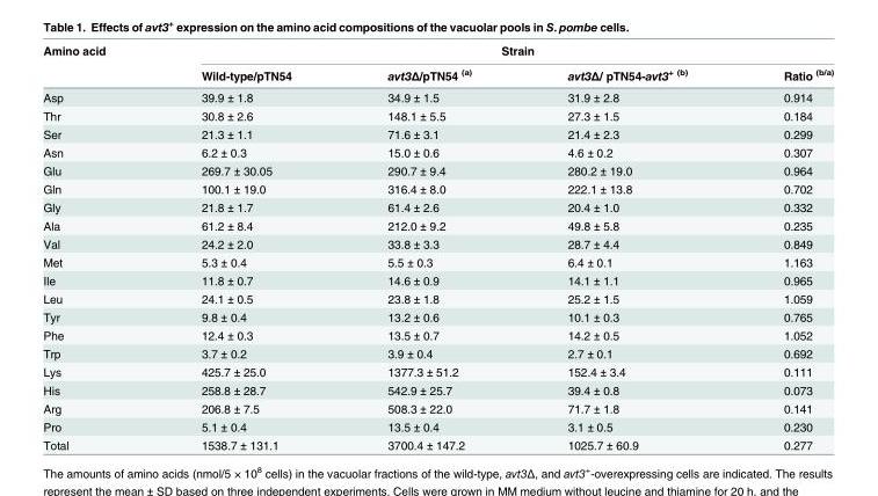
<table><thead><tr><td rowspan="2">Amino acid</td><td colspan="4">Strain</td></tr><tr><td>Wild-type/pTN54</td><td>avt3Δ/pTN54 <sup>(a)</sup></td><td>avt3Δ/ pTN54-avt3<sup>+ (b)</sup></td><td>Ratio <sup>(b/a)</sup></td></tr></thead><tbody><tr><td>Asp</td><td>39.9 ± 1.8</td><td>34.9 ± 1.5</td><td>31.9 ± 2.8</td><td>0.914</td></tr><tr><td>Thr</td><td>30.8 ± 2.6</td><td>148.1 ± 5.5</td><td>27.3 ± 1.5</td><td>0.184</td></tr><tr><td>Ser</td><td>21.3 ± 1.1</td><td>71.6 ± 3.1</td><td>21.4 ± 2.3</td><td>0.299</td></tr><tr><td>Asn</td><td>6.2 ± 0.3</td><td>15.0 ± 0.6</td><td>4.6 ± 0.2</td><td>0.307</td></tr><tr><td>Glu</td><td>269.7 ± 30.05</td><td>290.7 ± 9.4</td><td>280.2 ± 19.0</td><td>0.964</td></tr><tr><td>Gln</td><td>100.1 ± 19.0</td><td>316.4 ± 8.0</td><td>222.1 ± 13.8</td><td>0.702</td></tr><tr><td>Gly</td><td>21.8 ± 1.7</td><td>61.4 ± 2.6</td><td>20.4 ± 1.0</td><td>0.332</td></tr><tr><td>Ala</td><td>61.2 ± 8.4</td><td>212.0 ± 9.2</td><td>49.8 ± 5.8</td><td>0.235</td></tr><tr><td>Val</td><td>24.2 ± 2.0</td><td>33.8 ± 3.3</td><td>28.7 ± 4.4</td><td>0.849</td></tr><tr><td>Met</td><td>5.3 ± 0.4</td><td>5.5 ± 0.3</td><td>6.4 ± 0.1</td><td>1.163</td></tr><tr><td>Ile</td><td>11.8 ± 0.7</td><td>14.6 ± 0.9</td><td>14.1 ± 1.1</td><td>0.965</td></tr><tr><td>Leu</td><td>24.1 ± 0.5</td><td>23.8 ± 1.8</td><td>25.2 ± 1.5</td><td>1.059</td></tr><tr><td>Tyr</td><td>9.8 ± 0.4</td><td>13.2 ± 0.6</td><td>10.1 ± 0.3</td><td>0.765</td></tr><tr><td>Phe</td><td>12.4 ± 0.3</td><td>13.5 ± 0.7</td><td>14.2 ± 0.5</td><td>1.052</td></tr><tr><td>Trp</td><td>3.7 ± 0.2</td><td>3.9 ± 0.4</td><td>2.7 ± 0.1</td><td>0.692</td></tr><tr><td>Lys</td><td>425.7 ± 25.0</td><td>1377.3 ± 51.2</td><td>152.4 ± 3.4</td><td>0.111</td></tr><tr><td>His</td><td>258.8 ± 28.7</td><td>542.9 ± 25.7</td><td>39.4 ± 0.8</td><td>0.073</td></tr><tr><td>Arg</td><td>206.8 ± 7.5</td><td>508.3 ± 22.0</td><td>71.7 ± 1.8</td><td>0.141</td></tr><tr><td>Pro</td><td>5.1 ± 0.4</td><td>13.5 ± 0.4</td><td>3.1 ± 0.5</td><td>0.230</td></tr><tr><td>Total</td><td>1538.7 ± 131.1</td><td>3700.4 ± 147.2</td><td>1025.7 ± 60.9</td><td>0.277</td></tr></tbody></table>